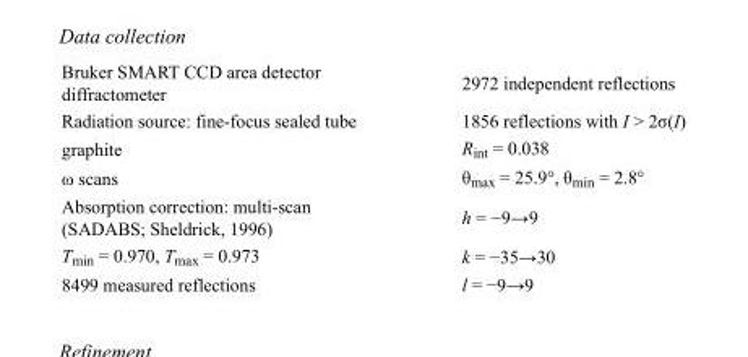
<table><tbody><tr><td>Bruker SMART CCD area detector diffractometer</td><td>2972 independent reflections</td></tr><tr><td>Radiation source: fine-focus sealed tube</td><td>1856 reflections with I &gt; 2σ(I)</td></tr><tr><td>graphite</td><td>R<sub>int</sub> = 0.038</td></tr><tr><td>ω scans</td><td>θ<sub>max</sub> = 25.9°, θ<sub>min</sub> = 2.8°</td></tr><tr><td>Absorption correction: multi-scan (SADABS; Sheldrick, 1996)</td><td>h = −9→9</td></tr><tr><td>T<sub>min</sub> = 0.970, T<sub>max</sub> = 0.973</td><td>k = −35→30</td></tr><tr><td>8499 measured reflections</td><td>l = −9→9</td></tr></tbody></table>